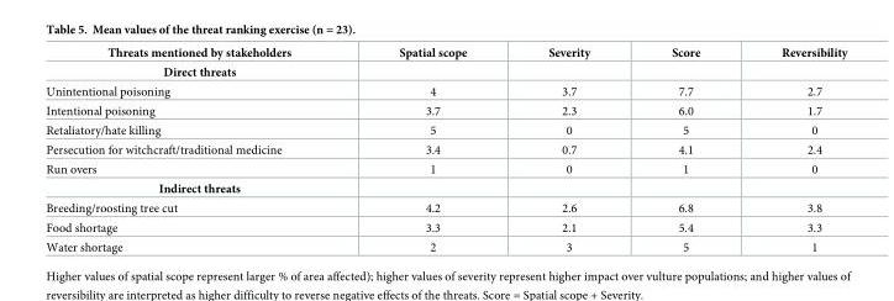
<table><thead><tr><td>Threats mentioned by stakeholders</td><td>Spatial scope</td><td>Severity</td><td>Score</td><td>Reversibility</td></tr></thead><tbody><tr><td colspan="5">Direct threats</td></tr><tr><td>Unintentional poisoning</td><td>4</td><td>3.7</td><td>7.7</td><td>2.7</td></tr><tr><td>Intentional poisoning</td><td>3.7</td><td>2.3</td><td>6.0</td><td>1.7</td></tr><tr><td>Retaliatory/hate killing</td><td>5</td><td>0</td><td>5</td><td>0</td></tr><tr><td>Persecution for witchcraft/traditional medicine</td><td>3.4</td><td>0.7</td><td>4.1</td><td>2.4</td></tr><tr><td>Run overs</td><td>1</td><td>0</td><td>1</td><td>0</td></tr><tr><td colspan="5">Indirect threats</td></tr><tr><td>Breeding/roosting tree cut</td><td>4.2</td><td>2.6</td><td>6.8</td><td>3.8</td></tr><tr><td>Food shortage</td><td>3.3</td><td>2.1</td><td>5.4</td><td>3.3</td></tr><tr><td>Water shortage</td><td>2</td><td>3</td><td>5</td><td>1</td></tr></tbody></table>